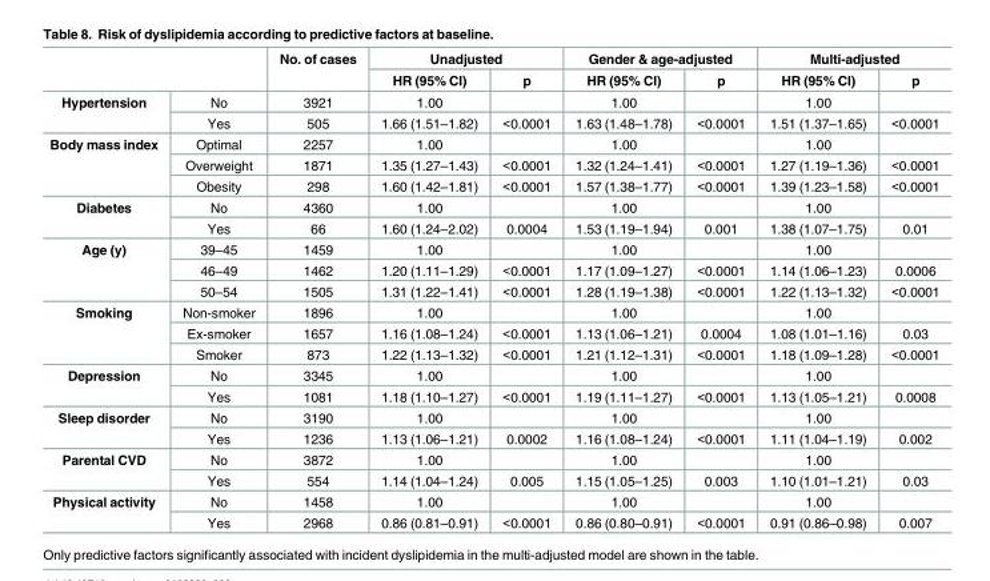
<table><thead><tr><td rowspan="2"></td><td rowspan="2"></td><td rowspan="2">No. of cases</td><td colspan="2">Unadjusted</td><td colspan="2">Gender &amp; age-adjusted</td><td colspan="2">Multi-adjusted</td></tr><tr><td>HR (95% CI)</td><td>p</td><td>HR (95% CI)</td><td>p</td><td>HR (95% CI)</td><td>p</td></tr></thead><tbody><tr><td rowspan="2">Hypertension</td><td>No</td><td>3921</td><td>1.00</td><td></td><td>1.00</td><td></td><td>1.00</td><td></td></tr><tr><td>Yes</td><td>505</td><td>1.66 (1.51–1.82)</td><td>&lt;0.0001</td><td>1.63 (1.48–1.78)</td><td>&lt;0.0001</td><td>1.51 (1.37–1.65)</td><td>&lt;0.0001</td></tr><tr><td rowspan="3">Body mass index</td><td>Optimal</td><td>2257</td><td>1.00</td><td></td><td>1.00</td><td></td><td>1.00</td><td></td></tr><tr><td>Overweight</td><td>1871</td><td>1.35 (1.27–1.43)</td><td>&lt;0.0001</td><td>1.32 (1.24–1.41)</td><td>&lt;0.0001</td><td>1.27 (1.19–1.36)</td><td>&lt;0.0001</td></tr><tr><td>Obesity</td><td>298</td><td>1.60 (1.42–1.81)</td><td>&lt;0.0001</td><td>1.57 (1.38–1.77)</td><td>&lt;0.0001</td><td>1.39 (1.23–1.58)</td><td>&lt;0.0001</td></tr><tr><td rowspan="2">Diabetes</td><td>No</td><td>4360</td><td>1.00</td><td></td><td>1.00</td><td></td><td>1.00</td><td></td></tr><tr><td>Yes</td><td>66</td><td>1.60 (1.24–2.02)</td><td>0.0004</td><td>1.53 (1.19–1.94)</td><td>0.001</td><td>1.38 (1.07–1.75)</td><td>0.01</td></tr><tr><td rowspan="3">Age (y)</td><td>39–45</td><td>1459</td><td>1.00</td><td></td><td>1.00</td><td></td><td>1.00</td><td></td></tr><tr><td>46–49</td><td>1462</td><td>1.20 (1.11–1.29)</td><td>&lt;0.0001</td><td>1.17 (1.09–1.27)</td><td>&lt;0.0001</td><td>1.14 (1.06–1.23)</td><td>0.0006</td></tr><tr><td>50–54</td><td>1505</td><td>1.31 (1.22–1.41)</td><td>&lt;0.0001</td><td>1.28 (1.19–1.38)</td><td>&lt;0.0001</td><td>1.22 (1.13–1.32)</td><td>&lt;0.0001</td></tr><tr><td rowspan="3">Smoking</td><td>Non-smoker</td><td>1896</td><td>1.00</td><td></td><td>1.00</td><td></td><td>1.00</td><td></td></tr><tr><td>Ex-smoker</td><td>1657</td><td>1.16 (1.08–1.24)</td><td>&lt;0.0001</td><td>1.13 (1.06–1.21)</td><td>0.0004</td><td>1.08 (1.01–1.16)</td><td>0.03</td></tr><tr><td>Smoker</td><td>873</td><td>1.22 (1.13–1.32)</td><td>&lt;0.0001</td><td>1.21 (1.12–1.31)</td><td>&lt;0.0001</td><td>1.18 (1.09–1.28)</td><td>&lt;0.0001</td></tr><tr><td rowspan="2">Depression</td><td>No</td><td>3345</td><td>1.00</td><td></td><td>1.00</td><td></td><td>1.00</td><td></td></tr><tr><td>Yes</td><td>1081</td><td>1.18 (1.10–1.27)</td><td>&lt;0.0001</td><td>1.19 (1.11–1.27)</td><td>&lt;0.0001</td><td>1.13 (1.05–1.21)</td><td>0.0008</td></tr><tr><td rowspan="2">Sleep disorder</td><td>No</td><td>3190</td><td>1.00</td><td></td><td>1.00</td><td></td><td>1.00</td><td></td></tr><tr><td>Yes</td><td>1236</td><td>1.13 (1.06–1.21)</td><td>0.0002</td><td>1.16 (1.08–1.24)</td><td>&lt;0.0001</td><td>1.11 (1.04–1.19)</td><td>0.002</td></tr><tr><td rowspan="2">Parental CVD</td><td>No</td><td>3872</td><td>1.00</td><td></td><td>1.00</td><td></td><td>1.00</td><td></td></tr><tr><td>Yes</td><td>554</td><td>1.14 (1.04–1.24)</td><td>0.005</td><td>1.15 (1.05–1.25)</td><td>0.003</td><td>1.10 (1.01–1.21)</td><td>0.03</td></tr><tr><td rowspan="2">Physical activity</td><td>No</td><td>1458</td><td>1.00</td><td></td><td>1.00</td><td></td><td>1.00</td><td></td></tr><tr><td>Yes</td><td>2968</td><td>0.86 (0.81–0.91)</td><td>&lt;0.0001</td><td>0.86 (0.80–0.91)</td><td>&lt;0.0001</td><td>0.91 (0.86–0.98)</td><td>0.007</td></tr></tbody></table>